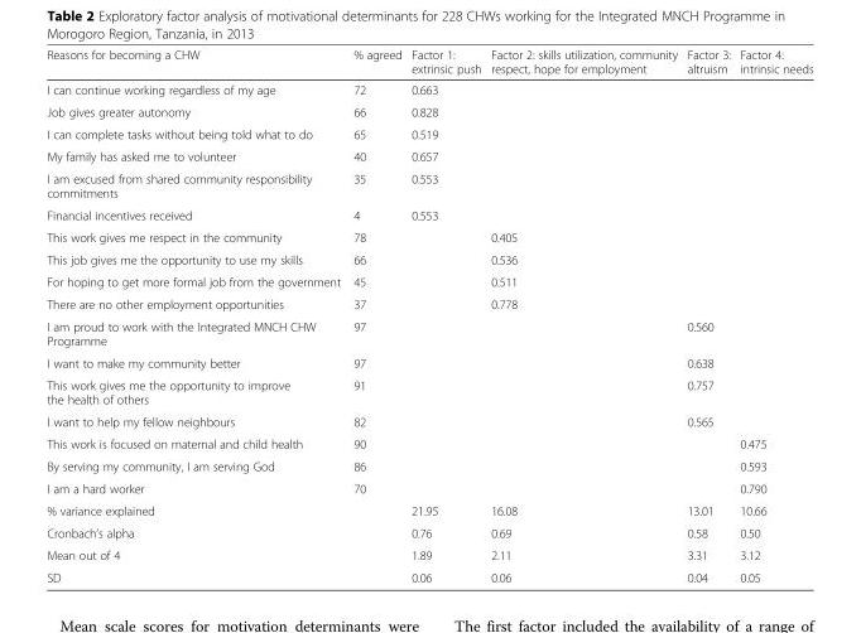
<table><thead><tr><td>Reasons for becoming a CHW</td><td>% agreed</td><td>Factor 1: extrinsic push</td><td>Factor 2: skills utilization, community respect, hope for employment</td><td>Factor 3: altruism</td><td>Factor 4: intrinsic needs</td></tr></thead><tbody><tr><td>I can continue working regardless of my age</td><td>72</td><td>0.663</td><td></td><td></td><td></td></tr><tr><td>Job gives greater autonomy</td><td>66</td><td>0.828</td><td></td><td></td><td></td></tr><tr><td>I can complete tasks without being told what to do</td><td>65</td><td>0.519</td><td></td><td></td><td></td></tr><tr><td>My family has asked me to volunteer</td><td>40</td><td>0.657</td><td></td><td></td><td></td></tr><tr><td>I am excused from shared community responsibility commitments</td><td>35</td><td>0.553</td><td></td><td></td><td></td></tr><tr><td>Financial incentives received</td><td>4</td><td>0.553</td><td></td><td></td><td></td></tr><tr><td>This work gives me respect in the community</td><td>78</td><td></td><td>0.405</td><td></td><td></td></tr><tr><td>This job gives me the opportunity to use my skills</td><td>66</td><td></td><td>0.536</td><td></td><td></td></tr><tr><td>For hoping to get more formal job from the government</td><td>45</td><td></td><td>0.511</td><td></td><td></td></tr><tr><td>There are no other employment opportunities</td><td>37</td><td></td><td>0.778</td><td></td><td></td></tr><tr><td>I am proud to work with the Integrated MNCH CHW Programme</td><td>97</td><td></td><td></td><td>0.560</td><td></td></tr><tr><td>I want to make my community better</td><td>97</td><td></td><td></td><td>0.638</td><td></td></tr><tr><td>This work gives me the opportunity to improve the health of others</td><td>91</td><td></td><td></td><td>0.757</td><td></td></tr><tr><td>I want to help my fellow neighbours</td><td>82</td><td></td><td></td><td>0.565</td><td></td></tr><tr><td>This work is focused on maternal and child health</td><td>90</td><td></td><td></td><td></td><td>0.475</td></tr><tr><td>By serving my community, I am serving God</td><td>86</td><td></td><td></td><td></td><td>0.593</td></tr><tr><td>I am a hard worker</td><td>70</td><td></td><td></td><td></td><td>0.790</td></tr><tr><td>% variance explained</td><td></td><td>21.95</td><td>16.08</td><td>13.01</td><td>10.66</td></tr><tr><td>Cronbach’s alpha</td><td></td><td>0.76</td><td>0.69</td><td>0.58</td><td>0.50</td></tr><tr><td>Mean out of 4</td><td></td><td>1.89</td><td>2.11</td><td>3.31</td><td>3.12</td></tr><tr><td>SD</td><td></td><td>0.06</td><td>0.06</td><td>0.04</td><td>0.05</td></tr></tbody></table>